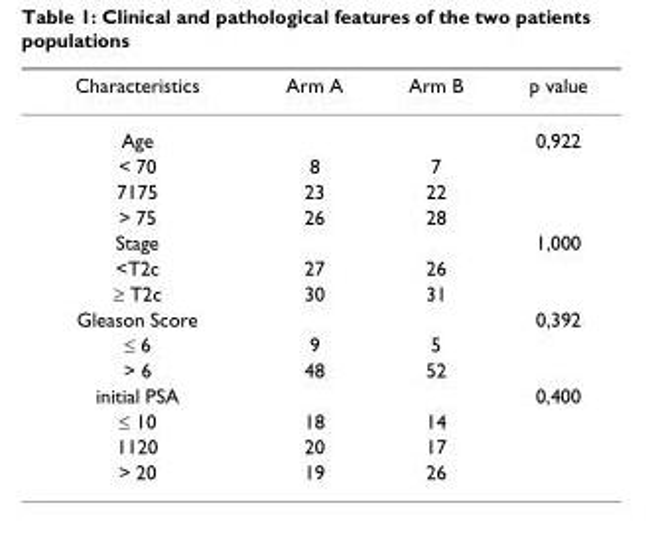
<table><thead><tr><td>Characteristics</td><td>Arm A</td><td>Arm B</td><td>p value</td></tr></thead><tbody><tr><td>Age</td><td></td><td></td><td>0,922</td></tr><tr><td>&lt; 70</td><td>8</td><td>7</td><td></td></tr><tr><td>7175</td><td>23</td><td>22</td><td></td></tr><tr><td>&gt; 75</td><td>26</td><td>28</td><td></td></tr><tr><td>Stage</td><td></td><td></td><td>1,000</td></tr><tr><td>&lt;T2c</td><td>27</td><td>26</td><td></td></tr><tr><td>≥ T2c</td><td>30</td><td>31</td><td></td></tr><tr><td>Gleason Score</td><td></td><td></td><td>0,392</td></tr><tr><td>≤ 6</td><td>9</td><td>5</td><td></td></tr><tr><td>&gt; 6</td><td>48</td><td>52</td><td></td></tr><tr><td>initial PSA</td><td></td><td></td><td>0,400</td></tr><tr><td>≤ 10</td><td>18</td><td>14</td><td></td></tr><tr><td>1120</td><td>20</td><td>17</td><td></td></tr><tr><td>&gt; 20</td><td>19</td><td>26</td><td></td></tr></tbody></table>